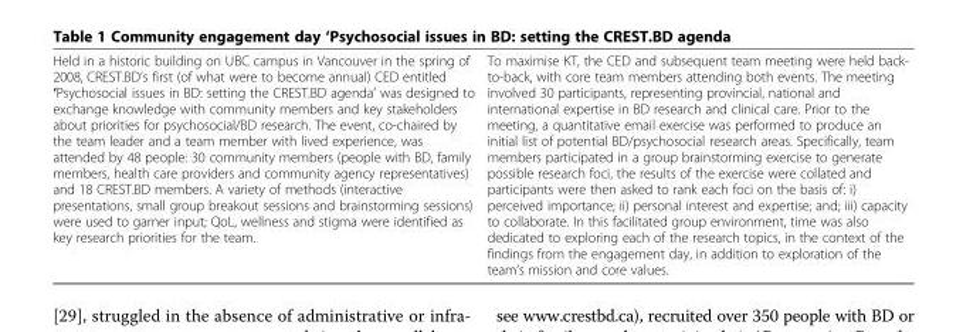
<table><tbody><tr><td>Held in a historic building on UBC campus in Vancouver in the spring of 2008, CREST.BD’s first (of what were to become annual) CED entitled ‘Psychosocial issues in BD: setting the CREST.BD agenda’ was designed to exchange knowledge with community members and key stakeholders about priorities for psychosocial/BD research. The event, co-chaired by the team leader and a team member with lived experience, was attended by 48 people: 30 community members (people with BD, family members, health care providers and community agency representatives) and 18 CREST.BD members. A variety of methods (interactive presentations, small group breakout sessions and brainstorming sessions) were used to garner input; QoL, wellness and stigma were identified as key research priorities for the team.</td><td>To maximise KT, the CED and subsequent team meeting were held back- to-back, with core team members attending both events. The meeting involved 30 participants, representing provincial, national and international expertise in BD research and clinical care. Prior to the meeting, a quantitative email exercise was performed to produce an initial list of potential BD/psychosocial research areas. Specifically, team members participated in a group brainstorming exercise to generate possible research foci, the results of the exercise were collated and participants were then asked to rank each foci on the basis of: i) perceived importance; ii) personal interest and expertise; and; iii) capacity to collaborate. In this facilitated group environment, time was also dedicated to exploring each of the research topics, in the context of the findings from the engagement day, in addition to exploration of the team’s mission and core values.</td></tr></tbody></table>